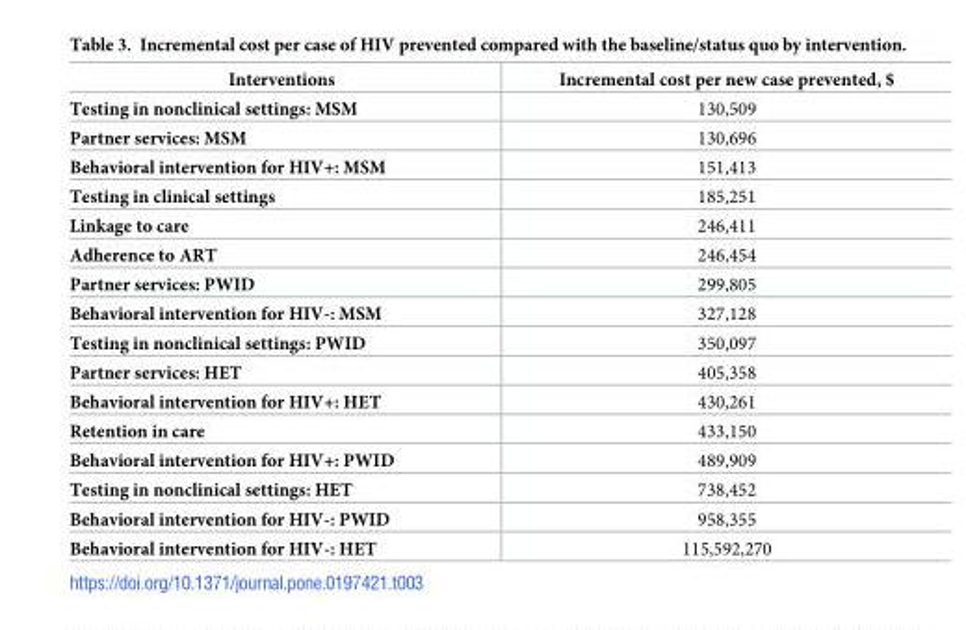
<table><thead><tr><td>Interventions</td><td>Incremental cost per new case prevented, $</td></tr></thead><tbody><tr><td>Testing in nonclinical settings: MSM</td><td>130,509</td></tr><tr><td>Partner services: MSM</td><td>130,696</td></tr><tr><td>Behavioral intervention for HIV+: MSM</td><td>151,413</td></tr><tr><td>Testing in clinical settings</td><td>185,251</td></tr><tr><td>Linkage to care</td><td>246,411</td></tr><tr><td>Adherence to ART</td><td>246,454</td></tr><tr><td>Partner services: PWID</td><td>299,805</td></tr><tr><td>Behavioral intervention for HIV-: MSM</td><td>327,128</td></tr><tr><td>Testing in nonclinical settings: PWID</td><td>350,097</td></tr><tr><td>Partner services: HET</td><td>405,358</td></tr><tr><td>Behavioral intervention for HIV+: HET</td><td>430,261</td></tr><tr><td>Retention in care</td><td>433,150</td></tr><tr><td>Behavioral intervention for HIV+: PWID</td><td>489,909</td></tr><tr><td>Testing in nonclinical settings: HET</td><td>738,452</td></tr><tr><td>Behavioral intervention for HIV-: PWID</td><td>958,355</td></tr><tr><td>Behavioral intervention for HIV-: HET</td><td>115,592,270</td></tr></tbody></table>